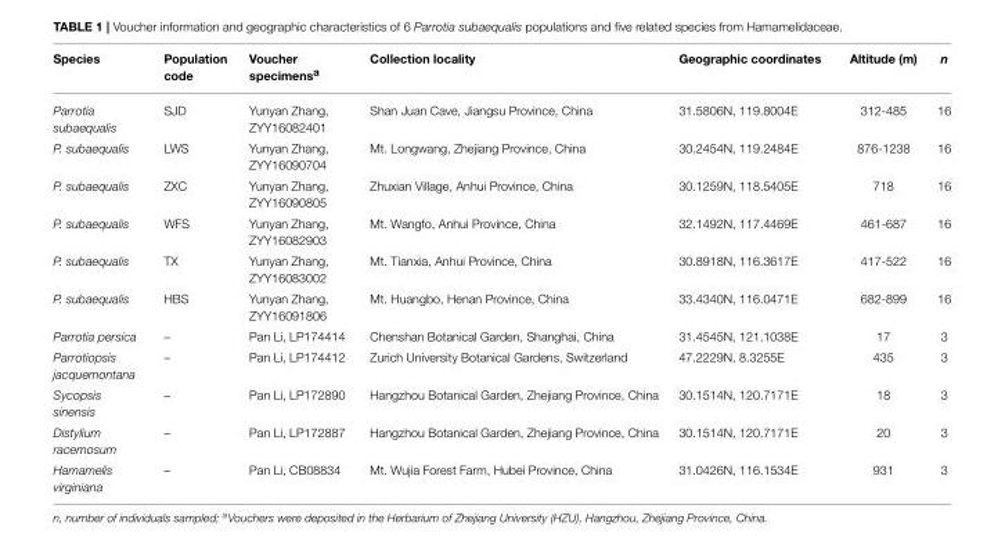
<table><thead><tr><td>Species</td><td>Population code</td><td>Voucher specimens<sup>a</sup></td><td>Collection locality</td><td>Geographic coordinates</td><td>Altitude (m)</td><td>n</td></tr></thead><tbody><tr><td>Parrotia subaequalis</td><td>SJD</td><td>Yunyan Zhang, ZYY16082401</td><td>Shan Juan Cave, Jiangsu Province, China</td><td>31.5806N, 119.8004E</td><td>312-485</td><td>16</td></tr><tr><td>P. subaequalis</td><td>LWS</td><td>Yunyan Zhang, ZYY16090704</td><td>Mt. Longwang, Zhejiang Province, China</td><td>30.2454N, 119.2484E</td><td>876-1238</td><td>16</td></tr><tr><td>P. subaequalis</td><td>ZXC</td><td>Yunyan Zhang, ZYY16090805</td><td>Zhuxian Village, Anhui Province, China</td><td>30.1259N, 118.5405E</td><td>718</td><td>16</td></tr><tr><td>P. subaequalis</td><td>WFS</td><td>Yunyan Zhang, ZYY16082903</td><td>Mt. Wangfo, Anhui Province, China</td><td>32.1492N, 117.4469E</td><td>461-687</td><td>16</td></tr><tr><td>P. subaequalis</td><td>TX</td><td>Yunyan Zhang, ZYY16083002</td><td>Mt. Tianxia, Anhui Province, China</td><td>30.8918N, 116.3617E</td><td>417-522</td><td>16</td></tr><tr><td>P. subaequalis</td><td>HBS</td><td>Yunyan Zhang, ZYY16091806</td><td>Mt. Huangbo, Henan Province, China</td><td>33.4340N, 116.0471E</td><td>682-899</td><td>16</td></tr><tr><td>Parrotia persica</td><td>–</td><td>Pan Li, LP174414</td><td>Chenshan Botanical Garden, Shanghai, China</td><td>31.4545N, 121.1038E</td><td>17</td><td>3</td></tr><tr><td>Parrotiopsis jacquemontana</td><td>–</td><td>Pan Li, LP174412</td><td>Zurich University Botanical Gardens, Switzerland</td><td>47.2229N, 8.3255E</td><td>435</td><td>3</td></tr><tr><td>Sycopsis sinensis</td><td>–</td><td>Pan Li, LP172890</td><td>Hangzhou Botanical Garden, Zhejiang Province, China</td><td>30.1514N, 120.7171E</td><td>18</td><td>3</td></tr><tr><td>Distylium racemosum</td><td>–</td><td>Pan Li, LP172887</td><td>Hangzhou Botanical Garden, Zhejiang Province, China</td><td>30.1514N, 120.7171E</td><td>20</td><td>3</td></tr><tr><td>Hamamelis virginiana</td><td>–</td><td>Pan Li, CB08834</td><td>Mt. Wujia Forest Farm, Hubei Province, China</td><td>31.0426N, 116.1534E</td><td>931</td><td>3</td></tr></tbody></table>